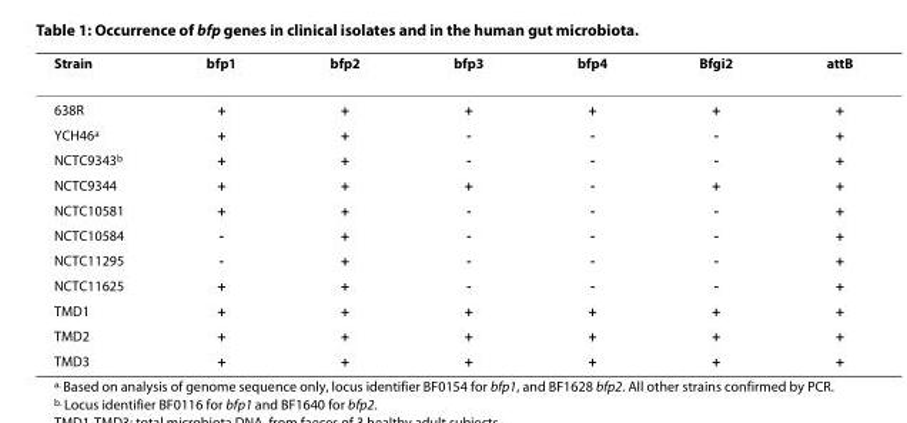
<table><thead><tr><td>Strain</td><td>bfp1</td><td>bfp2</td><td>bfp3</td><td>bfp4</td><td>Bfgi2</td><td>attB</td></tr></thead><tbody><tr><td>638R</td><td>+</td><td>+</td><td>+</td><td>+</td><td>+</td><td>+</td></tr><tr><td>YCH46<sup>a</sup></td><td>+</td><td>+</td><td>-</td><td>-</td><td>-</td><td>+</td></tr><tr><td>NCTC9343<sup>b</sup></td><td>+</td><td>+</td><td>-</td><td>-</td><td>-</td><td>+</td></tr><tr><td>NCTC9344</td><td>+</td><td>+</td><td>+</td><td>-</td><td>+</td><td>+</td></tr><tr><td>NCTC10581</td><td>+</td><td>+</td><td>-</td><td>-</td><td>-</td><td>+</td></tr><tr><td>NCTC10584</td><td>-</td><td>+</td><td>-</td><td>-</td><td>-</td><td>+</td></tr><tr><td>NCTC11295</td><td>-</td><td>+</td><td>-</td><td>-</td><td>-</td><td>+</td></tr><tr><td>NCTC11625</td><td>+</td><td>+</td><td>-</td><td>-</td><td>-</td><td>+</td></tr><tr><td>TMD1</td><td>+</td><td>+</td><td>+</td><td>+</td><td>+</td><td>+</td></tr><tr><td>TMD2</td><td>+</td><td>+</td><td>+</td><td>+</td><td>+</td><td>+</td></tr><tr><td>TMD3</td><td>+</td><td>+</td><td>+</td><td>+</td><td>+</td><td>+</td></tr></tbody></table>